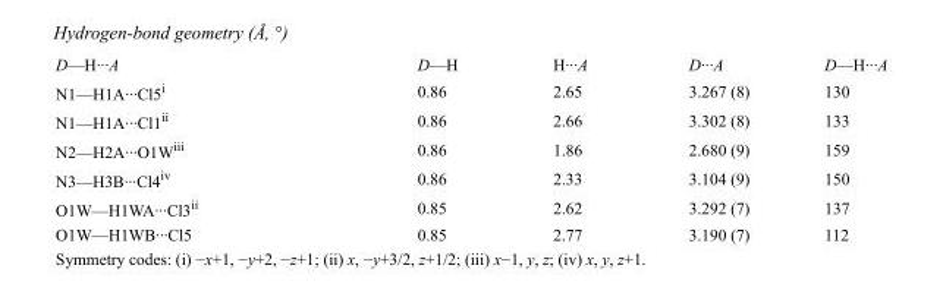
<table><tbody><tr><td>D—H···A</td><td>D—H</td><td>H···A</td><td>D···A</td><td>D—H···A</td></tr><tr><td>N1—H1A···Cl5<sup>i</sup></td><td>0.86</td><td>2.65</td><td>3.267 (8)</td><td>130</td></tr><tr><td>N1—H1A···Cl1<sup>ii</sup></td><td>0.86</td><td>2.66</td><td>3.302 (8)</td><td>133</td></tr><tr><td>N2—H2A···O1W<sup>iii</sup></td><td>0.86</td><td>1.86</td><td>2.680 (9)</td><td>159</td></tr><tr><td>N3—H3B···Cl4<sup>iv</sup></td><td>0.86</td><td>2.33</td><td>3.104 (9)</td><td>150</td></tr><tr><td>O1W—H1WA···Cl3<sup>ii</sup></td><td>0.85</td><td>2.62</td><td>3.292 (7)</td><td>137</td></tr><tr><td>O1W—H1WB···Cl5</td><td>0.85</td><td>2.77</td><td>3.190 (7)</td><td>112</td></tr></tbody></table>